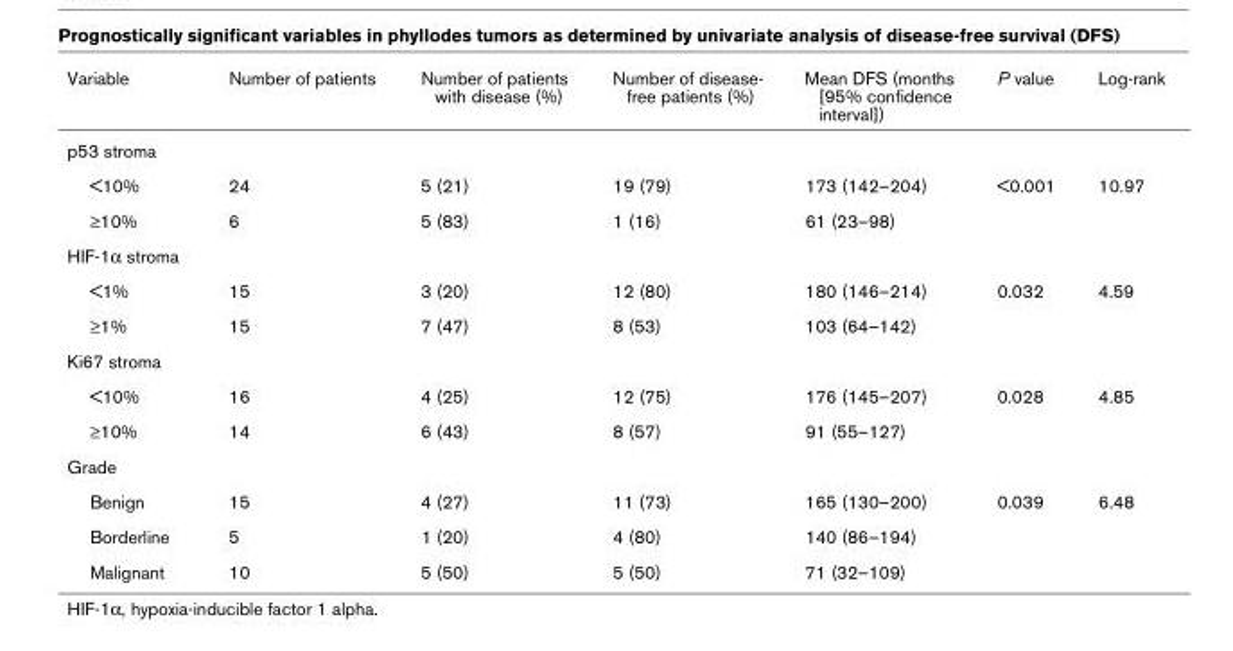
<table><thead><tr><td>Variable</td><td>Number of patients</td><td>Number of patients with disease (%)</td><td>Number of disease- free patients (%)</td><td>Mean DFS (months [95% confidence interval])</td><td>P value</td><td>Log-rank</td></tr></thead><tbody><tr><td colspan="7">p53 stroma</td></tr><tr><td>&lt;10%</td><td>24</td><td>5 (21)</td><td>19 (79)</td><td>173 (142–204)</td><td>&lt;0.001</td><td>10.97</td></tr><tr><td>≥10%</td><td>6</td><td>5 (83)</td><td>1 (16)</td><td>61 (23–98)</td><td></td><td></td></tr><tr><td colspan="7">HIF-1α stroma</td></tr><tr><td>&lt;1%</td><td>15</td><td>3 (20)</td><td>12 (80)</td><td>180 (146–214)</td><td>0.032</td><td>4.59</td></tr><tr><td>≥1%</td><td>15</td><td>7 (47)</td><td>8 (53)</td><td>103 (64–142)</td><td></td><td></td></tr><tr><td colspan="7">Ki67 stroma</td></tr><tr><td>&lt;10%</td><td>16</td><td>4 (25)</td><td>12 (75)</td><td>176 (145–207)</td><td>0.028</td><td>4.85</td></tr><tr><td>≥10%</td><td>14</td><td>6 (43)</td><td>8 (57)</td><td>91 (55–127)</td><td></td><td></td></tr><tr><td colspan="7">Grade</td></tr><tr><td>Benign</td><td>15</td><td>4 (27)</td><td>11 (73)</td><td>165 (130–200)</td><td>0.039</td><td>6.48</td></tr><tr><td>Borderline</td><td>5</td><td>1 (20)</td><td>4 (80)</td><td>140 (86–194)</td><td></td><td></td></tr><tr><td>Malignant</td><td>10</td><td>5 (50)</td><td>5 (50)</td><td>71 (32–109)</td><td></td><td></td></tr></tbody></table>